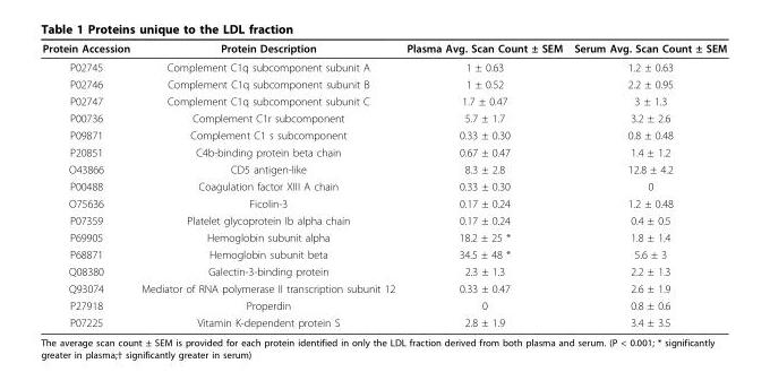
<table><thead><tr><td>Protein Accession</td><td>Protein Description</td><td>Plasma Avg. Scan Count ± SEM</td><td>Serum Avg. Scan Count ± SEM</td></tr></thead><tbody><tr><td>P02745</td><td>Complement C1q subcomponent subunit A</td><td>1 ± 0.63</td><td>1.2 ± 0.63</td></tr><tr><td>P02746</td><td>Complement C1q subcomponent subunit B</td><td>1 ± 0.52</td><td>2.2 ± 0.95</td></tr><tr><td>P02747</td><td>Complement C1q subcomponent subunit C</td><td>1.7 ± 0.47</td><td>3 ± 1.3</td></tr><tr><td>P00736</td><td>Complement C1r subcomponent</td><td>5.7 ± 1.7</td><td>3.2 ± 2.6</td></tr><tr><td>P09871</td><td>Complement C1 s subcomponent</td><td>0.33 ± 0.30</td><td>0.8 ± 0.48</td></tr><tr><td>P20851</td><td>C4b-binding protein beta chain</td><td>0.67 ± 0.47</td><td>1.4 ± 1.2</td></tr><tr><td>O43866</td><td>CD5 antigen-like</td><td>8.3 ± 2.8</td><td>12.8 ± 4.2</td></tr><tr><td>P00488</td><td>Coagulation factor XIII A chain</td><td>0.33 ± 0.30</td><td>0</td></tr><tr><td>O75636</td><td>Ficolin-3</td><td>0.17 ± 0.24</td><td>1.2 ± 0.48</td></tr><tr><td>P07359</td><td>Platelet glycoprotein Ib alpha chain</td><td>0.17 ± 0.24</td><td>0.4 ± 0.5</td></tr><tr><td>P69905</td><td>Hemoglobin subunit alpha</td><td>18.2 ± 25 *</td><td>1.8 ± 1.4</td></tr><tr><td>P68871</td><td>Hemoglobin subunit beta</td><td>34.5 ± 48 *</td><td>5.6 ± 3</td></tr><tr><td>Q08380</td><td>Galectin-3-binding protein</td><td>2.3 ± 1.3</td><td>2.2 ± 1.3</td></tr><tr><td>Q93074</td><td>Mediator of RNA polymerase II transcription subunit 12</td><td>0.33 ± 0.47</td><td>2.6 ± 1.9</td></tr><tr><td>P27918</td><td>Properdin</td><td>0</td><td>0.8 ± 0.6</td></tr><tr><td>P07225</td><td>Vitamin K-dependent protein S</td><td>2.8 ± 1.9</td><td>3.4 ± 3.5</td></tr></tbody></table>